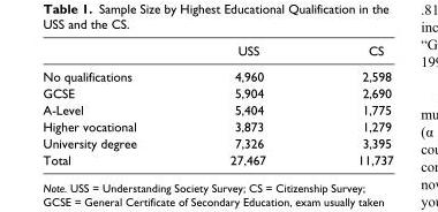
<table><thead><tr><td></td><td>USS</td><td>CS</td></tr></thead><tbody><tr><td>No qualifications</td><td>4,960</td><td>2,598</td></tr><tr><td>GCSE</td><td>5,904</td><td>2,690</td></tr><tr><td>A-Level</td><td>5,404</td><td>1,775</td></tr><tr><td>Higher vocational</td><td>3,873</td><td>1,279</td></tr><tr><td>University degree</td><td>7,326</td><td>3,395</td></tr><tr><td>Total</td><td>27,467</td><td>11,737</td></tr></tbody></table>